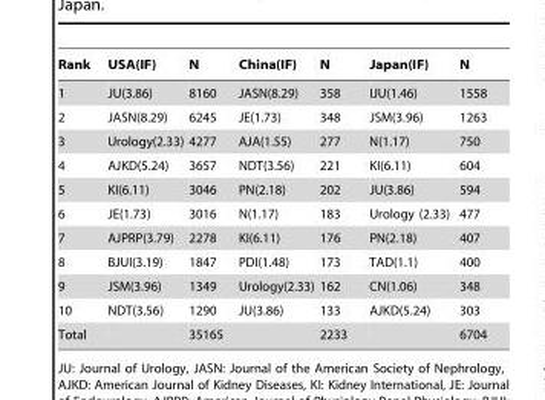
<table><thead><tr><td>Rank</td><td>USA(IF)</td><td>N</td><td>China(IF)</td><td>N</td><td>Japan(IF)</td><td>N</td></tr></thead><tbody><tr><td>1</td><td>JU(3.86)</td><td>8160</td><td>JASN(8.29)</td><td>358</td><td>IJU(1.46)</td><td>1558</td></tr><tr><td>2</td><td>JASN(8.29)</td><td>6245</td><td>JE(1.73)</td><td>348</td><td>JSM(3.96)</td><td>1263</td></tr><tr><td>3</td><td>Urology(2.33)</td><td>4277</td><td>AJA(1.55)</td><td>277</td><td>N(1.17)</td><td>750</td></tr><tr><td>4</td><td>AJKD(5.24)</td><td>3657</td><td>NDT(3.56)</td><td>221</td><td>KI(6.11)</td><td>604</td></tr><tr><td>5</td><td>KI(6.11)</td><td>3046</td><td>PN(2.18)</td><td>202</td><td>JU(3.86)</td><td>594</td></tr><tr><td>6</td><td>JE(1.73)</td><td>3016</td><td>N(1.17)</td><td>183</td><td>Urology (2.33)</td><td>477</td></tr><tr><td>7</td><td>AJPRP(3.79)</td><td>2278</td><td>KI(6.11)</td><td>176</td><td>PN(2.18)</td><td>407</td></tr><tr><td>8</td><td>BJUI(3.19)</td><td>1847</td><td>PDI(1.48)</td><td>173</td><td>TAD(1.1)</td><td>400</td></tr><tr><td>9</td><td>JSM(3.96)</td><td>1349</td><td>Urology(2.33)</td><td>162</td><td>CN(1.06)</td><td>348</td></tr><tr><td>10</td><td>NDT(3.56)</td><td>1290</td><td>JU(3.86)</td><td>133</td><td>AJKD(5.24)</td><td>303</td></tr><tr><td>Total</td><td></td><td>35165</td><td></td><td>2233</td><td></td><td>6704</td></tr></tbody></table>